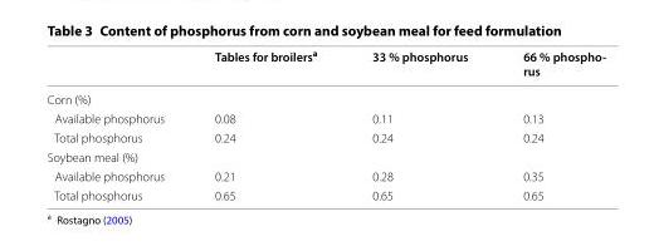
<table><thead><tr><td></td><td>Tables for broilers<sup>a</sup></td><td>33 % phosphorus</td><td>66 % phospho- rus</td></tr></thead><tbody><tr><td colspan="4">Corn (%)</td></tr><tr><td>Available phosphorus</td><td>0.08</td><td>0.11</td><td>0.13</td></tr><tr><td>Total phosphorus</td><td>0.24</td><td>0.24</td><td>0.24</td></tr><tr><td colspan="4">Soybean meal (%)</td></tr><tr><td>Available phosphorus</td><td>0.21</td><td>0.28</td><td>0.35</td></tr><tr><td>Total phosphorus</td><td>0.65</td><td>0.65</td><td>0.65</td></tr></tbody></table>